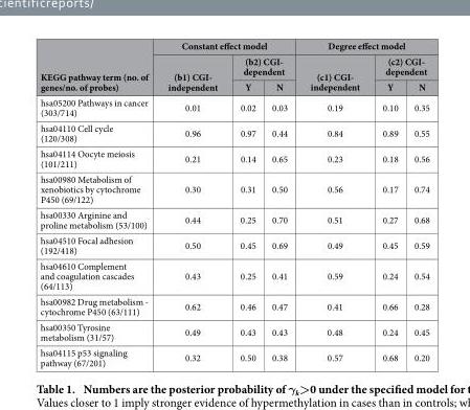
<table><thead><tr><td rowspan="3">KEGG pathway term (no. of genes/no. of probes)</td><td colspan="3">Constant effect model</td><td colspan="3">Degree effect model</td></tr><tr><td rowspan="2">(b1) CGI- independent</td><td colspan="2">(b2) CGI- dependent</td><td rowspan="2">(c1) CGI- independent</td><td colspan="2">(c2) CGI- dependent</td></tr><tr><td>Y</td><td>N</td><td>Y</td><td>N</td></tr></thead><tbody><tr><td>hsa05200 Pathways in cancer (303/714)</td><td>0.01</td><td>0.02</td><td>0.03</td><td>0.19</td><td>0.10</td><td>0.35</td></tr><tr><td>hsa04110 Cell cycle (120/308)</td><td>0.96</td><td>0.97</td><td>0.44</td><td>0.84</td><td>0.89</td><td>0.55</td></tr><tr><td>hsa04114 Oocyte meiosis (101/211)</td><td>0.21</td><td>0.14</td><td>0.65</td><td>0.23</td><td>0.18</td><td>0.56</td></tr><tr><td>hsa00980 Metabolism of xenobiotics by cytochrome P450 (69/122)</td><td>0.30</td><td>0.31</td><td>0.50</td><td>0.56</td><td>0.17</td><td>0.74</td></tr><tr><td>hsa00330 Arginine and proline metabolism (53/100)</td><td>0.44</td><td>0.25</td><td>0.70</td><td>0.51</td><td>0.27</td><td>0.68</td></tr><tr><td>hsa04510 Focal adhesion (192/418)</td><td>0.50</td><td>0.45</td><td>0.69</td><td>0.49</td><td>0.45</td><td>0.59</td></tr><tr><td>hsa04610 Complement and coagulation cascades (64/113)</td><td>0.43</td><td>0.25</td><td>0.41</td><td>0.59</td><td>0.24</td><td>0.54</td></tr><tr><td>hsa00982 Drug metabolism - cytochrome P450 (63/111)</td><td>0.62</td><td>0.46</td><td>0.47</td><td>0.41</td><td>0.66</td><td>0.28</td></tr><tr><td>hsa00350 Tyrosine metabolism (31/57)</td><td>0.49</td><td>0.43</td><td>0.43</td><td>0.48</td><td>0.24</td><td>0.45</td></tr><tr><td>hsa04115 p53 signaling pathway (67/201)</td><td>0.32</td><td>0.50</td><td>0.38</td><td>0.57</td><td>0.68</td><td>0.20</td></tr></tbody></table>